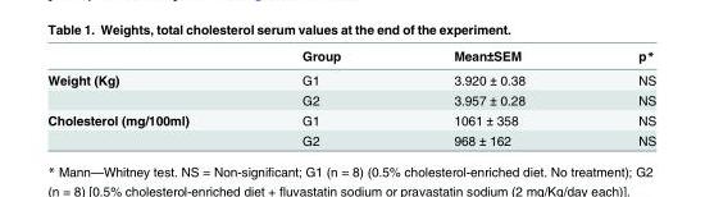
<table><thead><tr><td></td><td>Group</td><td>Mean±SEM</td><td>p*</td></tr></thead><tbody><tr><td rowspan="2">Weight (Kg)</td><td>G1</td><td>3.920 ± 0.38</td><td>NS</td></tr><tr><td>G2</td><td>3.957 ± 0.28</td><td>NS</td></tr><tr><td rowspan="2">Cholesterol (mg/100ml)</td><td>G1</td><td>1061 ± 358</td><td>NS</td></tr><tr><td>G2</td><td>968 ± 162</td><td>NS</td></tr></tbody></table>